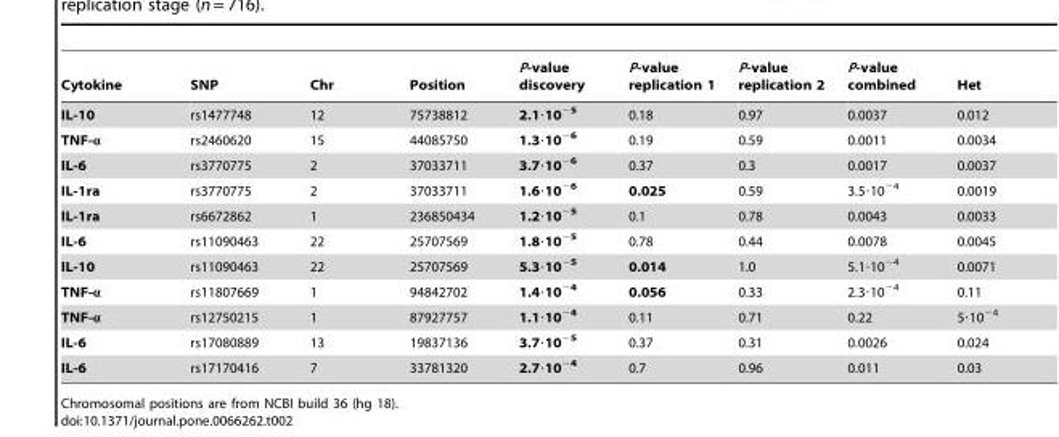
<table><thead><tr><td>Cytokine</td><td>SNP</td><td>Chr</td><td>Position</td><td>P-value discovery</td><td>P-value replication 1</td><td>P-value replication 2</td><td>P-value combined</td><td>Het</td></tr></thead><tbody><tr><td>IL-10</td><td>rs1477748</td><td>12</td><td>75738812</td><td>2.1·10<sup>−5</sup></td><td>0.18</td><td>0.97</td><td>0.0037</td><td>0.012</td></tr><tr><td>TNF-α</td><td>rs2460620</td><td>15</td><td>44085750</td><td>1.3·10<sup>−6</sup></td><td>0.19</td><td>0.59</td><td>0.0011</td><td>0.0034</td></tr><tr><td>IL-6</td><td>rs3770775</td><td>2</td><td>37033711</td><td>3.7·10<sup>−6</sup></td><td>0.37</td><td>0.3</td><td>0.0017</td><td>0.0037</td></tr><tr><td>IL-1ra</td><td>rs3770775</td><td>2</td><td>37033711</td><td>1.6·10<sup>−6</sup></td><td>0.025</td><td>0.59</td><td>3.5·10<sup>−4</sup></td><td>0.0019</td></tr><tr><td>IL-1ra</td><td>rs6672862</td><td>1</td><td>236850434</td><td>1.2·10<sup>−5</sup></td><td>0.1</td><td>0.78</td><td>0.0043</td><td>0.0033</td></tr><tr><td>IL-6</td><td>rs11090463</td><td>22</td><td>25707569</td><td>1.8·10<sup>−5</sup></td><td>0.78</td><td>0.44</td><td>0.0078</td><td>0.0045</td></tr><tr><td>IL-10</td><td>rs11090463</td><td>22</td><td>25707569</td><td>5.3·10<sup>−5</sup></td><td>0.014</td><td>1.0</td><td>5.1·10<sup>−4</sup></td><td>0.0071</td></tr><tr><td>TNF-α</td><td>rs11807669</td><td>1</td><td>94842702</td><td>1.4·10<sup>−4</sup></td><td>0.056</td><td>0.33</td><td>2.3·10<sup>−4</sup></td><td>0.11</td></tr><tr><td>TNF-α</td><td>rs12750215</td><td>1</td><td>87927757</td><td>1.1·10<sup>−4</sup></td><td>0.11</td><td>0.71</td><td>0.22</td><td>5·10<sup>−4</sup></td></tr><tr><td>IL-6</td><td>rs17080889</td><td>13</td><td>19837136</td><td>3.7·10<sup>−5</sup></td><td>0.37</td><td>0.31</td><td>0.0026</td><td>0.024</td></tr><tr><td>IL-6</td><td>rs17170416</td><td>7</td><td>33781320</td><td>2.7·10<sup>−4</sup></td><td>0.7</td><td>0.96</td><td>0.011</td><td>0.03</td></tr></tbody></table>